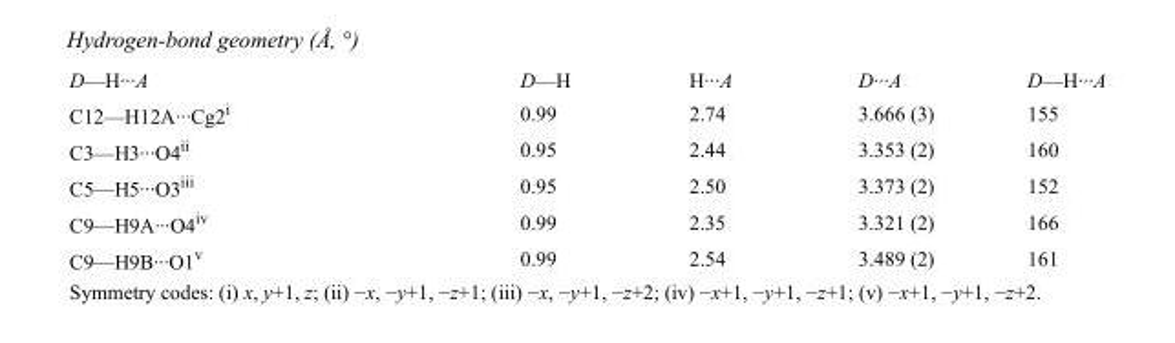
<table><tbody><tr><td>D—H···A</td><td>D—H</td><td>H···A</td><td>D···A</td><td>D—H···A</td></tr><tr><td>C12—H12A···Cg2<sup>i</sup></td><td>0.99</td><td>2.74</td><td>3.666 (3)</td><td>155</td></tr><tr><td>C3—H3···O4<sup>ii</sup></td><td>0.95</td><td>2.44</td><td>3.353 (2)</td><td>160</td></tr><tr><td>C5—H5···O3<sup>iii</sup></td><td>0.95</td><td>2.50</td><td>3.373 (2)</td><td>152</td></tr><tr><td>C9—H9A···O4<sup>iv</sup></td><td>0.99</td><td>2.35</td><td>3.321 (2)</td><td>166</td></tr><tr><td>C9—H9B···O1<sup>v</sup></td><td>0.99</td><td>2.54</td><td>3.489 (2)</td><td>161</td></tr></tbody></table>